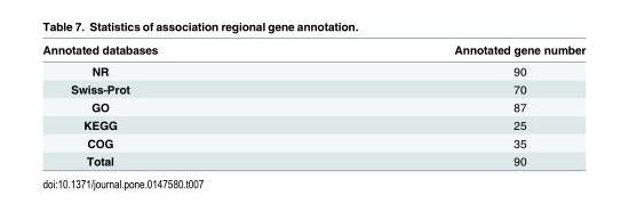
<table><thead><tr><td>Annotated databases</td><td>Annotated gene number</td></tr></thead><tbody><tr><td>NR</td><td>90</td></tr><tr><td>Swiss-Prot</td><td>70</td></tr><tr><td>GO</td><td>87</td></tr><tr><td>KEGG</td><td>25</td></tr><tr><td>COG</td><td>35</td></tr><tr><td>Total</td><td>90</td></tr></tbody></table>